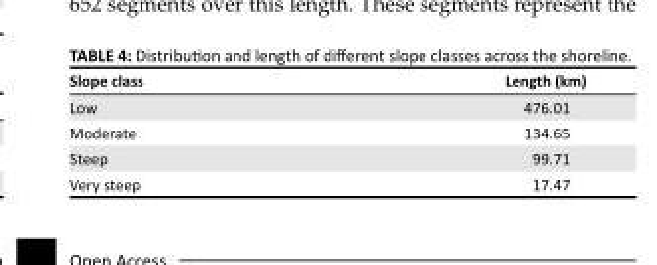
<table><thead><tr><td>Slope class</td><td>Length (km)</td></tr></thead><tbody><tr><td>Low</td><td>476.01</td></tr><tr><td>Moderate</td><td>134.65</td></tr><tr><td>Steep</td><td>99.71</td></tr><tr><td>Very steep</td><td>17.47</td></tr></tbody></table>